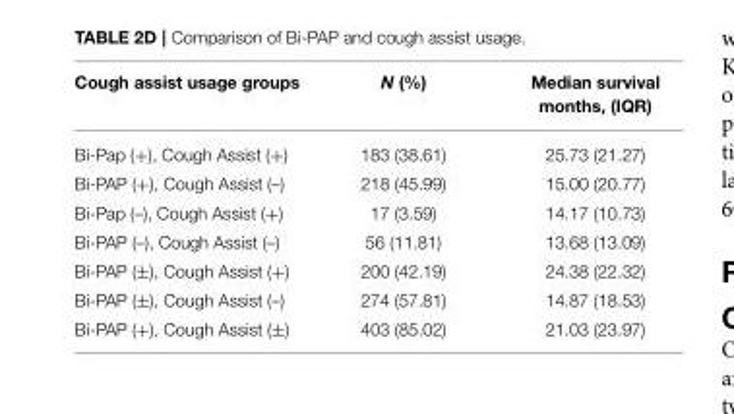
<table><thead><tr><td>Cough assist usage groups</td><td>N (%)</td><td>Median survival months, (IQR)</td></tr></thead><tbody><tr><td>Bi-Pap (+), Cough Assist (+)</td><td>183 (38.61)</td><td>25.73 (21.27)</td></tr><tr><td>Bi-PAP (+), Cough Assist (–)</td><td>218 (45.99)</td><td>15.00 (20.77)</td></tr><tr><td>Bi-Pap (–), Cough Assist (+)</td><td>17 (3.59)</td><td>14.17 (10.73)</td></tr><tr><td>Bi-PAP (–), Cough Assist (–)</td><td>56 (11.81)</td><td>13.68 (13.09)</td></tr><tr><td>Bi-PAP (±), Cough Assist (+)</td><td>200 (42.19)</td><td>24.38 (22.32)</td></tr><tr><td>Bi-PAP (±), Cough Assist (–)</td><td>274 (57.81)</td><td>14.87 (18.53)</td></tr><tr><td>Bi-PAP (+), Cough Assist (±)</td><td>403 (85.02)</td><td>21.03 (23.97)</td></tr></tbody></table>